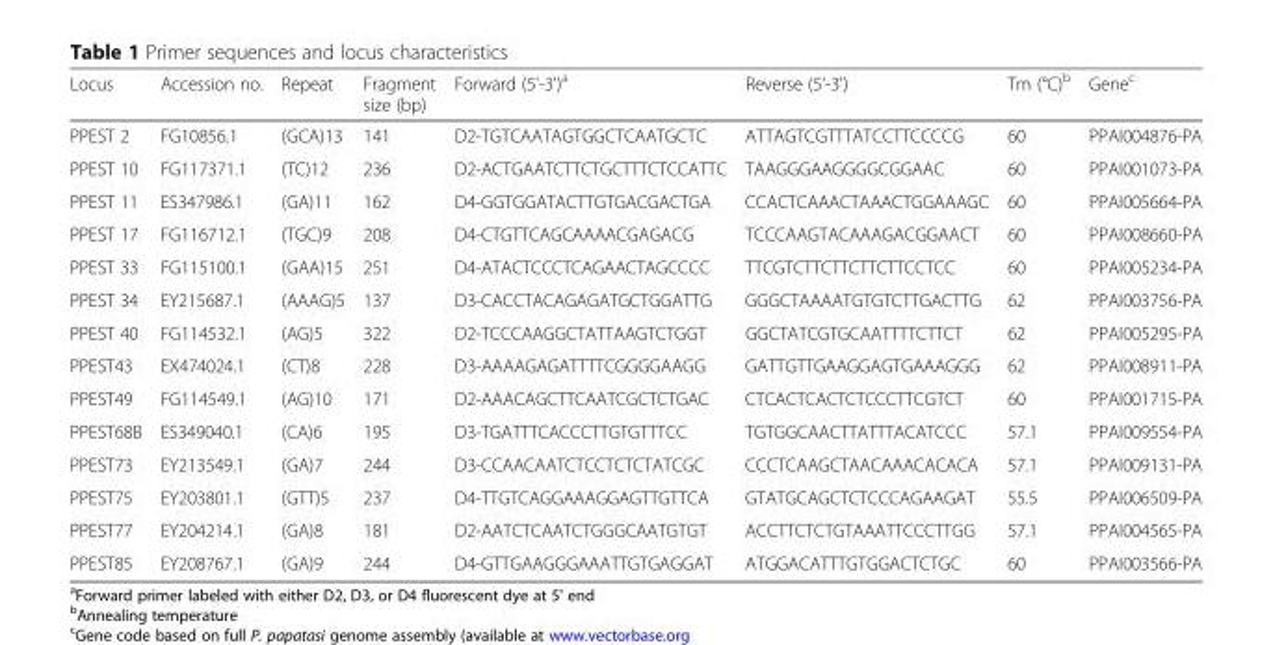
<table><thead><tr><td>Locus</td><td>Accession no.</td><td>Repeat</td><td>Fragment size (bp)</td><td>Forward (5&#x27;-3&#x27;)<sup>a</sup></td><td>Reverse (5&#x27;-3&#x27;)</td><td>Tm (°C)<sup>b</sup></td><td>Gene<sup>c</sup></td></tr></thead><tbody><tr><td>PPEST 2</td><td>FG10856.1</td><td>(GCA)13</td><td>141</td><td>D2-TGTCAATAGTGGCTCAATGCTC</td><td>ATTAGTCGTTTATCCTTCCCCG</td><td>60</td><td>PPAI004876-PA</td></tr><tr><td>PPEST 10</td><td>FG117371.1</td><td>(TC)12</td><td>236</td><td>D2-ACTGAATCTTCTGCTTTCTCCATTC</td><td>TAAGGGAAGGGGCGGAAC</td><td>60</td><td>PPAI001073-PA</td></tr><tr><td>PPEST 11</td><td>ES347986.1</td><td>(GA)11</td><td>162</td><td>D4-GGTGGATACTTGTGACGACTGA</td><td>CCACTCAAACTAAACTGGAAAGC</td><td>60</td><td>PPAI005664-PA</td></tr><tr><td>PPEST 17</td><td>FG116712.1</td><td>(TGC)9</td><td>208</td><td>D4-CTGTTCAGCAAAACGAGACG</td><td>TCCCAAGTACAAAGACGGAACT</td><td>60</td><td>PPAI008660-PA</td></tr><tr><td>PPEST 33</td><td>FG115100.1</td><td>(GAA)15</td><td>251</td><td>D4-ATACTCCCTCAGAACTAGCCCC</td><td>TTCGTCTTCTTCTTCTTCCTCC</td><td>60</td><td>PPAI005234-PA</td></tr><tr><td>PPEST 34</td><td>EY215687.1</td><td>(AAAG)5</td><td>137</td><td>D3-CACCTACAGAGATGCTGGATTG</td><td>GGGCTAAAATGTGTCTTGACTTG</td><td>62</td><td>PPAI003756-PA</td></tr><tr><td>PPEST 40</td><td>FG114532.1</td><td>(AG)5</td><td>322</td><td>D2-TCCCAAGGCTATTAAGTCTGGT</td><td>GGCTATCGTGCAATTTTCTTCT</td><td>62</td><td>PPAI005295-PA</td></tr><tr><td>PPEST43</td><td>EX474024.1</td><td>(CT)8</td><td>228</td><td>D3-AAAAGAGATTTTCGGGGAAGG</td><td>GATTGTTGAAGGAGTGAAAGGG</td><td>62</td><td>PPAI008911-PA</td></tr><tr><td>PPEST49</td><td>FG114549.1</td><td>(AG)10</td><td>171</td><td>D2-AAACAGCTTCAATCGCTCTGAC</td><td>CTCACTCACTCTCCCTTCGTCT</td><td>60</td><td>PPAI001715-PA</td></tr><tr><td>PPEST68B</td><td>ES349040.1</td><td>(CA)6</td><td>195</td><td>D3-TGATTTCACCCTTGTGTTTCC</td><td>TGTGGCAACTTATTTACATCCC</td><td>57.1</td><td>PPAI009554-PA</td></tr><tr><td>PPEST73</td><td>EY213549.1</td><td>(GA)7</td><td>244</td><td>D3-CCAACAATCTCCTCTCTATCGC</td><td>CCCTCAAGCTAACAAACACACA</td><td>57.1</td><td>PPAI009131-PA</td></tr><tr><td>PPEST75</td><td>EY203801.1</td><td>(GTT)5</td><td>237</td><td>D4-TTGTCAGGAAAGGAGTTGTTCA</td><td>GTATGCAGCTCTCCCAGAAGAT</td><td>55.5</td><td>PPAI006509-PA</td></tr><tr><td>PPEST77</td><td>EY204214.1</td><td>(GA)8</td><td>181</td><td>D2-AATCTCAATCTGGGCAATGTGT</td><td>ACCTTCTCTGTAAATTCCCTTGG</td><td>57.1</td><td>PPAI004565-PA</td></tr><tr><td>PPEST85</td><td>EY208767.1</td><td>(GA)9</td><td>244</td><td>D4-GTTGAAGGGAAATTGTGAGGAT</td><td>ATGGACATTTGTGGACTCTGC</td><td>60</td><td>PPAI003566-PA</td></tr></tbody></table>